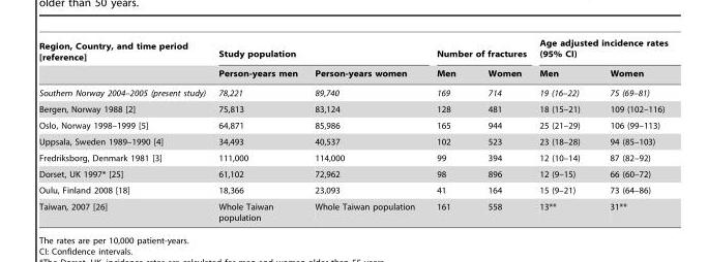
<table><thead><tr><td rowspan="2">Region, Country, and time period [reference]</td><td colspan="2">Study population</td><td colspan="2">Number of fractures</td><td colspan="2">Age adjusted incidence rates (95% CI)</td></tr><tr><td>Person-years men</td><td>Person-years women</td><td>Men</td><td>Women</td><td>Men</td><td>Women</td></tr></thead><tbody><tr><td>Southern Norway 2004–2005 (present study)</td><td>78,221</td><td>89,740</td><td>169</td><td>714</td><td>19 (16–22)</td><td>75 (69–81)</td></tr><tr><td>Bergen, Norway 1988 [2]</td><td>75,813</td><td>83,124</td><td>128</td><td>481</td><td>18 (15–21)</td><td>109 (102–116)</td></tr><tr><td>Oslo, Norway 1998–1999 [5]</td><td>64,871</td><td>85,986</td><td>165</td><td>944</td><td>25 (21–29)</td><td>106 (99–113)</td></tr><tr><td>Uppsala, Sweden 1989–1990 [4]</td><td>34,493</td><td>40,537</td><td>102</td><td>523</td><td>23 (18–28)</td><td>94 (85–103)</td></tr><tr><td>Fredriksborg, Denmark 1981 [3]</td><td>111,000</td><td>114,000</td><td>99</td><td>394</td><td>12 (10–14)</td><td>87 (82–92)</td></tr><tr><td>Dorset, UK 1997* [25]</td><td>61,102</td><td>72,962</td><td>98</td><td>896</td><td>12 (9–15)</td><td>66 (60–72)</td></tr><tr><td>Oulu, Finland 2008 [18]</td><td>18,366</td><td>23,093</td><td>41</td><td>164</td><td>15 (9–21)</td><td>73 (64–86)</td></tr><tr><td>Taiwan, 2007 [26]</td><td>Whole Taiwan population</td><td>Whole Taiwan population</td><td>161</td><td>558</td><td>13**</td><td>31**</td></tr></tbody></table>